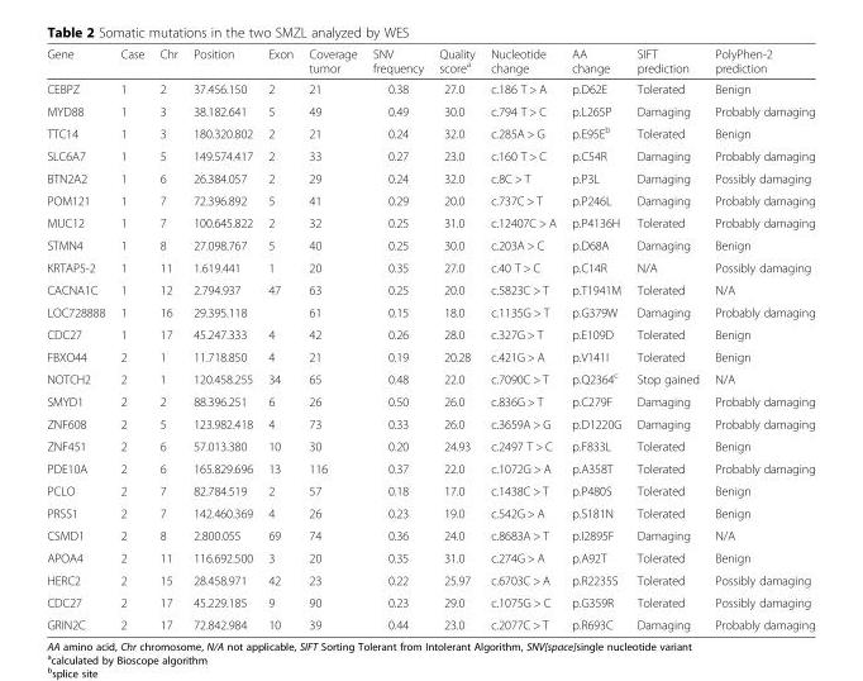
<table><thead><tr><td>Gene</td><td>Case</td><td>Chr</td><td>Position</td><td>Exon</td><td>Coverage tumor</td><td>SNV frequency</td><td>Quality score<sup>a</sup></td><td>Nucleotide change</td><td>AA change</td><td>SIFT prediction</td><td>PolyPhen-2 prediction</td></tr></thead><tbody><tr><td>CEBPZ</td><td>1</td><td>2</td><td>37.456.150</td><td>2</td><td>21</td><td>0.38</td><td>27.0</td><td>c.186 T &gt; A</td><td>p.D62E</td><td>Tolerated</td><td>Benign</td></tr><tr><td>MYD88</td><td>1</td><td>3</td><td>38.182.641</td><td>5</td><td>49</td><td>0.49</td><td>30.0</td><td>c.794 T &gt; C</td><td>p.L265P</td><td>Damaging</td><td>Probably damaging</td></tr><tr><td>TTC14</td><td>1</td><td>3</td><td>180.320.802</td><td>2</td><td>21</td><td>0.24</td><td>32.0</td><td>c.285A &gt; G</td><td>p.E95E<sup>b</sup></td><td>Tolerated</td><td>Benign</td></tr><tr><td>SLC6A7</td><td>1</td><td>5</td><td>149.574.417</td><td>2</td><td>33</td><td>0.27</td><td>23.0</td><td>c.160 T &gt; C</td><td>p.C54R</td><td>Damaging</td><td>Probably damaging</td></tr><tr><td>BTN2A2</td><td>1</td><td>6</td><td>26.384.057</td><td>2</td><td>29</td><td>0.24</td><td>32.0</td><td>c.8C &gt; T</td><td>p.P3L</td><td>Damaging</td><td>Possibly damaging</td></tr><tr><td>POM121</td><td>1</td><td>7</td><td>72.396.892</td><td>5</td><td>41</td><td>0.29</td><td>20.0</td><td>c.737C &gt; T</td><td>p.P246L</td><td>Damaging</td><td>Probably damaging</td></tr><tr><td>MUC12</td><td>1</td><td>7</td><td>100.645.822</td><td>2</td><td>32</td><td>0.25</td><td>31.0</td><td>c.12407C &gt; A</td><td>p.P4136H</td><td>Tolerated</td><td>Probably damaging</td></tr><tr><td>STMN4</td><td>1</td><td>8</td><td>27.098.767</td><td>5</td><td>40</td><td>0.25</td><td>30.0</td><td>c.203A &gt; C</td><td>p.D68A</td><td>Damaging</td><td>Benign</td></tr><tr><td>KRTAP5-2</td><td>1</td><td>11</td><td>1.619.441</td><td>1</td><td>20</td><td>0.35</td><td>27.0</td><td>c.40 T &gt; C</td><td>p.C14R</td><td>N/A</td><td>Possibly damaging</td></tr><tr><td>CACNA1C</td><td>1</td><td>12</td><td>2.794.937</td><td>47</td><td>63</td><td>0.25</td><td>20.0</td><td>c.5823C &gt; T</td><td>p.T1941M</td><td>Tolerated</td><td>N/A</td></tr><tr><td>LOC728888</td><td>1</td><td>16</td><td>29.395.118</td><td></td><td>61</td><td>0.15</td><td>18.0</td><td>c.1135G &gt; T</td><td>p.G379W</td><td>Damaging</td><td>Probably damaging</td></tr><tr><td>CDC27</td><td>1</td><td>17</td><td>45.247.333</td><td>4</td><td>42</td><td>0.26</td><td>28.0</td><td>c.327G &gt; T</td><td>p.E109D</td><td>Tolerated</td><td>Benign</td></tr><tr><td>FBXO44</td><td>2</td><td>1</td><td>11.718.850</td><td>4</td><td>21</td><td>0.19</td><td>20.28</td><td>c.421G &gt; A</td><td>p.V141I</td><td>Tolerated</td><td>Benign</td></tr><tr><td>NOTCH2</td><td>2</td><td>1</td><td>120.458.255</td><td>34</td><td>65</td><td>0.48</td><td>22.0</td><td>c.7090C &gt; T</td><td>p.Q2364<sup>c</sup></td><td>Stop gained</td><td>N/A</td></tr><tr><td>SMYD1</td><td>2</td><td>2</td><td>88.396.251</td><td>6</td><td>26</td><td>0.50</td><td>26.0</td><td>c.836G &gt; T</td><td>p.C279F</td><td>Damaging</td><td>Probably damaging</td></tr><tr><td>ZNF608</td><td>2</td><td>5</td><td>123.982.418</td><td>4</td><td>73</td><td>0.33</td><td>26.0</td><td>c.3659A &gt; G</td><td>p.D1220G</td><td>Damaging</td><td>Probably damaging</td></tr><tr><td>ZNF451</td><td>2</td><td>6</td><td>57.013.380</td><td>10</td><td>30</td><td>0.20</td><td>24.93</td><td>c.2497 T &gt; C</td><td>p.F833L</td><td>Tolerated</td><td>Benign</td></tr><tr><td>PDE10A</td><td>2</td><td>6</td><td>165.829.696</td><td>13</td><td>116</td><td>0.37</td><td>22.0</td><td>c.1072G &gt; A</td><td>p.A358T</td><td>Tolerated</td><td>Probably damaging</td></tr><tr><td>PCLO</td><td>2</td><td>7</td><td>82.784.519</td><td>2</td><td>57</td><td>0.18</td><td>17.0</td><td>c.1438C &gt; T</td><td>p.P480S</td><td>Tolerated</td><td>Benign</td></tr><tr><td>PRSS1</td><td>2</td><td>7</td><td>142.460.369</td><td>4</td><td>26</td><td>0.23</td><td>19.0</td><td>c.542G &gt; A</td><td>p.S181N</td><td>Tolerated</td><td>Benign</td></tr><tr><td>CSMD1</td><td>2</td><td>8</td><td>2.800.055</td><td>69</td><td>74</td><td>0.36</td><td>24.0</td><td>c.8683A &gt; T</td><td>p.I2895F</td><td>Damaging</td><td>N/A</td></tr><tr><td>APOA4</td><td>2</td><td>11</td><td>116.692.500</td><td>3</td><td>20</td><td>0.35</td><td>31.0</td><td>c.274G &gt; A</td><td>p.A92T</td><td>Tolerated</td><td>Benign</td></tr><tr><td>HERC2</td><td>2</td><td>15</td><td>28.458.971</td><td>42</td><td>23</td><td>0.22</td><td>25.97</td><td>c.6703C &gt; A</td><td>p.R2235S</td><td>Tolerated</td><td>Possibly damaging</td></tr><tr><td>CDC27</td><td>2</td><td>17</td><td>45.229.185</td><td>9</td><td>90</td><td>0.23</td><td>29.0</td><td>c.1075G &gt; C</td><td>p.G359R</td><td>Tolerated</td><td>Possibly damaging</td></tr><tr><td>GRIN2C</td><td>2</td><td>17</td><td>72.842.984</td><td>10</td><td>39</td><td>0.44</td><td>23.0</td><td>c.2077C &gt; T</td><td>p.R693C</td><td>Damaging</td><td>Probably damaging</td></tr></tbody></table>